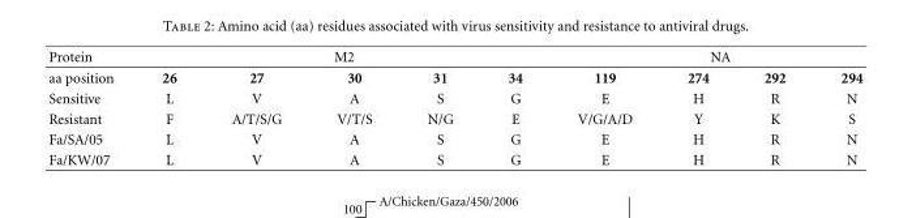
<table><thead><tr><td rowspan="2">Protein aa position</td><td colspan="5">M2</td><td colspan="4">NA</td></tr><tr><td>26</td><td>27</td><td>30</td><td>31</td><td>34</td><td>119</td><td>274</td><td>292</td><td>294</td></tr></thead><tbody><tr><td>Sensitive</td><td>L</td><td>V</td><td>A</td><td>S</td><td>G</td><td>E</td><td>H</td><td>R</td><td>N</td></tr><tr><td>Resistant</td><td>F</td><td>A/T/S/G</td><td>V/T/S</td><td>N/G</td><td>E</td><td>V/G/A/D</td><td>Y</td><td>K</td><td>S</td></tr><tr><td>Fa/SA/05</td><td>L</td><td>V</td><td>A</td><td>S</td><td>G</td><td>E</td><td>H</td><td>R</td><td>N</td></tr><tr><td>Fa/KW/07</td><td>L</td><td>V</td><td>A</td><td>S</td><td>G</td><td>E</td><td>H</td><td>R</td><td>N</td></tr></tbody></table>